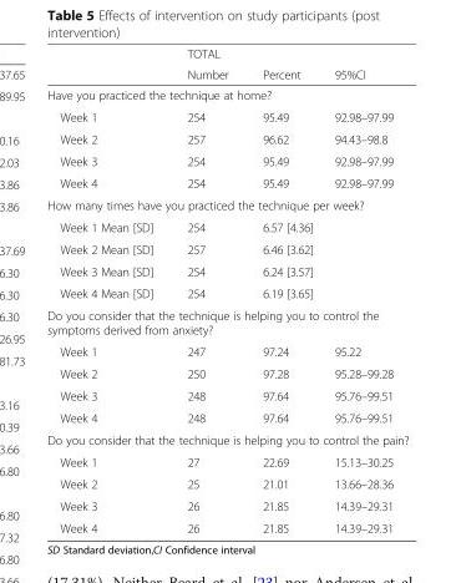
<table><thead><tr><td rowspan="2"></td><td rowspan="2">TOTAL Number</td><td rowspan="2">Percent</td><td rowspan="2">95%CI</td></tr><tr></tr></thead><tbody><tr><td colspan="4">Have you practiced the technique at home?</td></tr><tr><td>Week 1</td><td>254</td><td>95.49</td><td>92.98–97.99</td></tr><tr><td>Week 2</td><td>257</td><td>96.62</td><td>94.43–98.8</td></tr><tr><td>Week 3</td><td>254</td><td>95.49</td><td>92.98–97.99</td></tr><tr><td>Week 4</td><td>254</td><td>95.49</td><td>92.98–97.99</td></tr><tr><td colspan="4">How many times have you practiced the technique per week?</td></tr><tr><td>Week 1 Mean [SD]</td><td>254</td><td colspan="2">6.57 [4.36]</td></tr><tr><td>Week 2 Mean [SD]</td><td>257</td><td colspan="2">6.46 [3.62]</td></tr><tr><td>Week 3 Mean [SD]</td><td>254</td><td colspan="2">6.24 [3.57]</td></tr><tr><td>Week 4 Mean [SD]</td><td>254</td><td colspan="2">6.19 [3.65]</td></tr><tr><td colspan="4">Do you consider that the technique is helping you to control the symptoms derived from anxiety?</td></tr><tr><td>Week 1</td><td>247</td><td>97.24</td><td>95.22</td></tr><tr><td>Week 2</td><td>250</td><td>97.28</td><td>95.28–99.28</td></tr><tr><td>Week 3</td><td>248</td><td>97.64</td><td>95.76–99.51</td></tr><tr><td>Week 4</td><td>248</td><td>97.64</td><td>95.76–99.51</td></tr><tr><td colspan="4">Do you consider that the technique is helping you to control the pain?</td></tr><tr><td>Week 1</td><td>27</td><td>22.69</td><td>15.13–30.25</td></tr><tr><td>Week 2</td><td>25</td><td>21.01</td><td>13.66–28.36</td></tr><tr><td>Week 3</td><td>26</td><td>21.85</td><td>14.39–29.31</td></tr><tr><td>Week 4</td><td>26</td><td>21.85</td><td>14.39–29.31</td></tr></tbody></table>